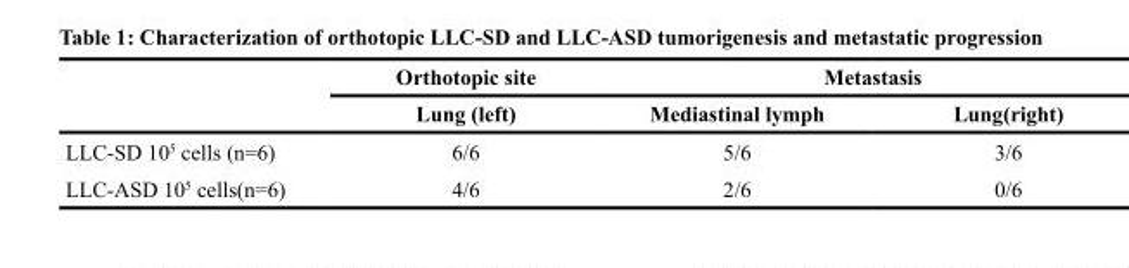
<table><thead><tr><td rowspan="2"></td><td rowspan="2">Orthotopic site Lung (left)</td><td colspan="2">Metastasis</td></tr><tr><td>Mediastinal lymph</td><td>Lung(right)</td></tr></thead><tbody><tr><td>LLC-SD 10<sup>5</sup> cells (n=6)</td><td>6/6</td><td>5/6</td><td>3/6</td></tr><tr><td>LLC-ASD 10<sup>5</sup> cells(n=6)</td><td>4/6</td><td>2/6</td><td>0/6</td></tr></tbody></table>